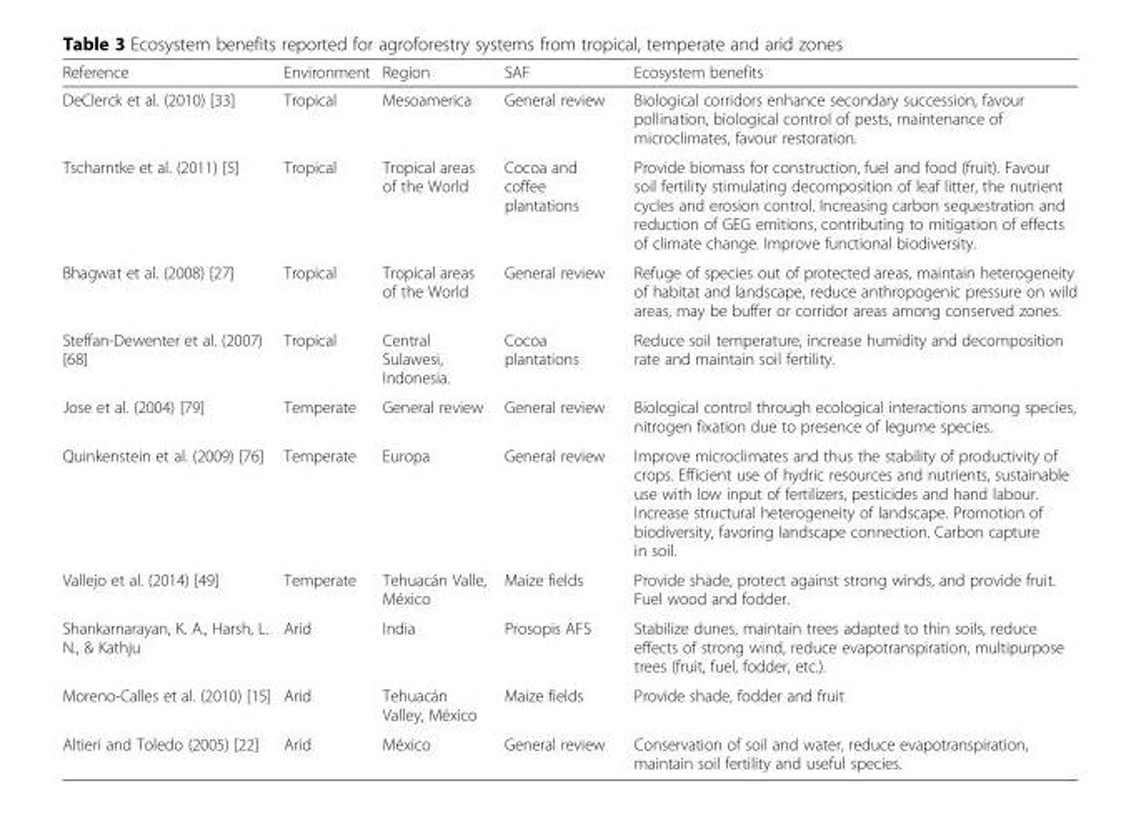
<table><thead><tr><td>Reference</td><td>Environment</td><td>Region</td><td>SAF</td><td>Ecosystem benefits</td></tr></thead><tbody><tr><td>DeClerck et al. (2010) [33]</td><td>Tropical</td><td>Mesoamerica</td><td>General review</td><td>Biological corridors enhance secondary succession, favour pollination, biological control of pests, maintenance of microclimates, favour restoration.</td></tr><tr><td>Tscharntke et al. (2011) [5]</td><td>Tropical</td><td>Tropical areas of the World</td><td>Cocoa and coffee plantations</td><td>Provide biomass for construction, fuel and food (fruit). Favour soil fertility stimulating decomposition of leaf litter, the nutrient cycles and erosion control. Increasing carbon sequestration and reduction of GEG emitions, contributing to mitigation of effects of climate change. Improve functional biodiversity.</td></tr><tr><td>Bhagwat et al. (2008) [27]</td><td>Tropical</td><td>Tropical areas of the World</td><td>General review</td><td>Refuge of species out of protected areas, maintain heterogeneity of habitat and landscape, reduce anthropogenic pressure on wild areas, may be buffer or corridor areas among conserved zones.</td></tr><tr><td>Steffan-Dewenter et al. (2007) [68]</td><td>Tropical</td><td>Central Sulawesi, Indonesia.</td><td>Cocoa plantations</td><td>Reduce soil temperature, increase humidity and decomposition rate and maintain soil fertility.</td></tr><tr><td>Jose et al. (2004) [79]</td><td>Temperate</td><td>General review</td><td>General review</td><td>Biological control through ecological interactions among species, nitrogen fixation due to presence of legume species.</td></tr><tr><td>Quinkenstein et al. (2009) [76]</td><td>Temperate</td><td>Europa</td><td>General review</td><td>Improve microclimates and thus the stability of productivity of crops. Efficient use of hydric resources and nutrients, sustainable use with low input of fertilizers, pesticides and hand labour. Increase structural heterogeneity of landscape. Promotion of biodiversity, favoring landscape connection. Carbon capture in soil.</td></tr><tr><td>Vallejo et al. (2014) [49]</td><td>Temperate</td><td>Tehuacán Valle, México</td><td>Maize fields</td><td>Provide shade, protect against strong winds, and provide fruit. Fuel wood and fodder.</td></tr><tr><td>Shankarnarayan, K. A., Harsh, L. N., &amp; Kathju</td><td>Arid</td><td>India</td><td>Prosopis AFS</td><td>Stabilize dunes, maintain trees adapted to thin soils, reduce effects of strong wind, reduce evapotranspiration, multipurpose trees (fruit, fuel, fodder, etc.).</td></tr><tr><td>Moreno-Calles et al. (2010) [15]</td><td>Arid</td><td>Tehuacán Valley, México</td><td>Maize fields</td><td>Provide shade, fodder and fruit</td></tr><tr><td>Altieri and Toledo (2005) [22]</td><td>Arid</td><td>México</td><td>General review</td><td>Conservation of soil and water, reduce evapotranspiration, maintain soil fertility and useful species.</td></tr></tbody></table>